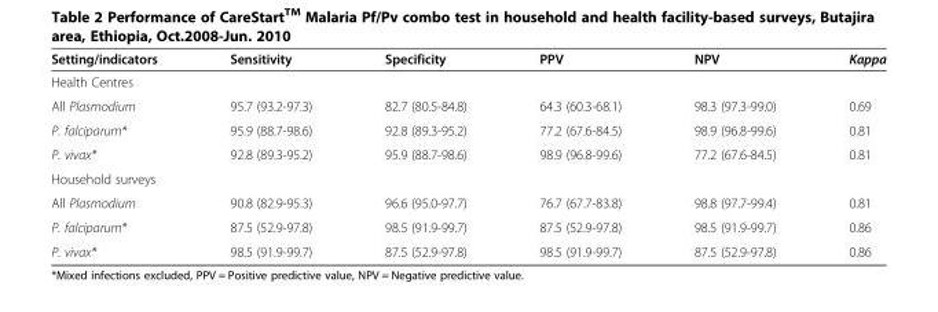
<table><thead><tr><td>Setting/indicators</td><td>Sensitivity</td><td>Specificity</td><td>PPV</td><td>NPV</td><td>Kappa</td></tr></thead><tbody><tr><td colspan="6">Health Centres</td></tr><tr><td>All Plasmodium</td><td>95.7 (93.2-97.3)</td><td>82.7 (80.5-84.8)</td><td>64.3 (60.3-68.1)</td><td>98.3 (97.3-99.0)</td><td>0.69</td></tr><tr><td>P. falciparum*</td><td>95.9 (88.7-98.6)</td><td>92.8 (89.3-95.2)</td><td>77.2 (67.6-84.5)</td><td>98.9 (96.8-99.6)</td><td>0.81</td></tr><tr><td>P. vivax*</td><td>92.8 (89.3-95.2)</td><td>95.9 (88.7-98.6)</td><td>98.9 (96.8-99.6)</td><td>77.2 (67.6-84.5)</td><td>0.81</td></tr><tr><td colspan="6">Household surveys</td></tr><tr><td>All Plasmodium</td><td>90.8 (82.9-95.3)</td><td>96.6 (95.0-97.7)</td><td>76.7 (67.7-83.8)</td><td>98.8 (97.7-99.4)</td><td>0.81</td></tr><tr><td>P. falciparum*</td><td>87.5 (52.9-97.8)</td><td>98.5 (91.9-99.7)</td><td>87.5 (52.9-97.8)</td><td>98.5 (91.9-99.7)</td><td>0.86</td></tr><tr><td>P. vivax*</td><td>98.5 (91.9-99.7)</td><td>87.5 (52.9-97.8)</td><td>98.5 (91.9-99.7)</td><td>87.5 (52.9-97.8)</td><td>0.86</td></tr></tbody></table>